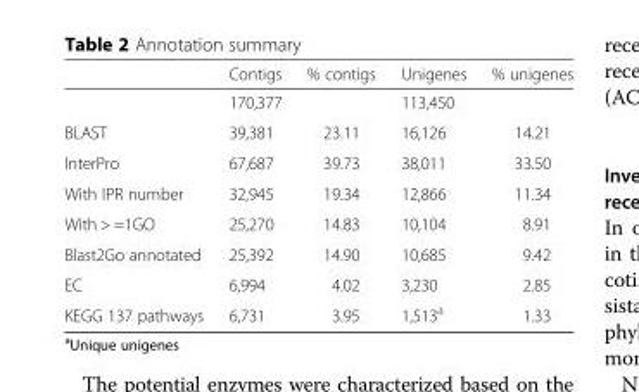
<table><thead><tr><td></td><td>Contigs</td><td>% contigs</td><td>Unigenes</td><td>% unigenes</td></tr></thead><tbody><tr><td></td><td>170,377</td><td></td><td>113,450</td><td></td></tr><tr><td>BLAST</td><td>39,381</td><td>23.11</td><td>16,126</td><td>14.21</td></tr><tr><td>InterPro</td><td>67,687</td><td>39.73</td><td>38,011</td><td>33.50</td></tr><tr><td>With IPR number</td><td>32,945</td><td>19.34</td><td>12,866</td><td>11.34</td></tr><tr><td>With &gt; =1GO</td><td>25,270</td><td>14.83</td><td>10,104</td><td>8.91</td></tr><tr><td>Blast2Go annotated</td><td>25,392</td><td>14.90</td><td>10,685</td><td>9.42</td></tr><tr><td>EC</td><td>6,994</td><td>4.02</td><td>3,230</td><td>2.85</td></tr><tr><td>KEGG 137 pathways</td><td>6,731</td><td>3.95</td><td>1,513<sup>a</sup></td><td>1.33</td></tr></tbody></table>